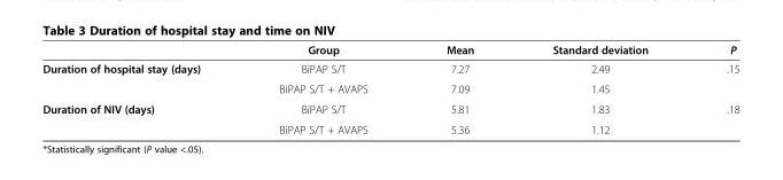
<table><thead><tr><td></td><td>Group</td><td>Mean</td><td>Standard deviation</td><td>P</td></tr></thead><tbody><tr><td rowspan="2">Duration of hospital stay (days)</td><td>BiPAP S/T</td><td>7.27</td><td>2.49</td><td rowspan="2">.15</td></tr><tr><td>BiPAP S/T + AVAPS</td><td>7.09</td><td>1.45</td></tr><tr><td rowspan="2">Duration of NIV (days)</td><td>BiPAP S/T</td><td>5.81</td><td>1.83</td><td rowspan="2">.18</td></tr><tr><td>BiPAP S/T + AVAPS</td><td>5.36</td><td>1.12</td></tr></tbody></table>